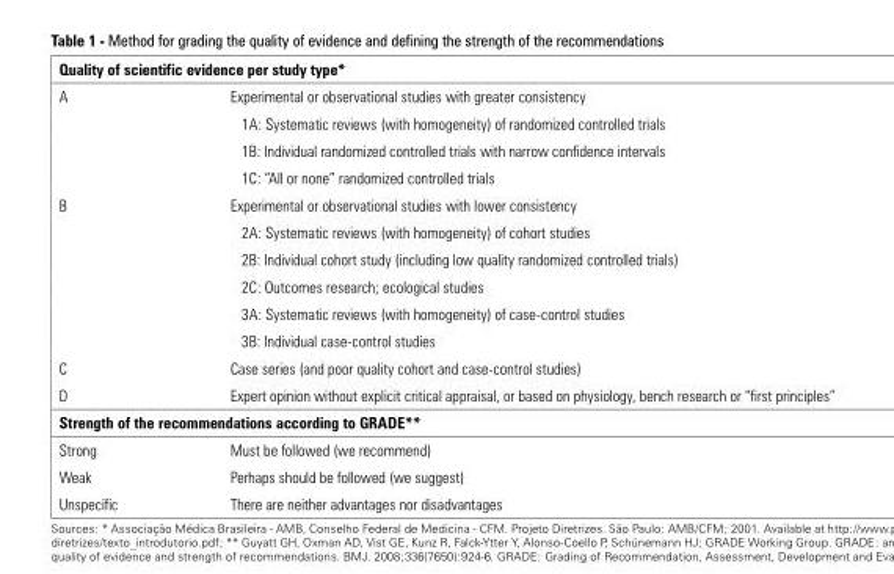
<table><tbody><tr><td colspan="2">Quality of scientific evidence per study type*</td></tr><tr><td rowspan="4">A</td><td>Experimental or observational studies with greater consistency</td></tr><tr><td>1A: Systematic reviews (with homogeneity) of randomized controlled trials</td></tr><tr><td>1B: Individual randomized controlled trials with narrow confidence intervals</td></tr><tr><td>1C: “All or none” randomized controlled trials</td></tr><tr><td rowspan="6">B</td><td>Experimental or observational studies with lower consistency</td></tr><tr><td>2A: Systematic reviews (with homogeneity) of cohort studies</td></tr><tr><td>2B: Individual cohort study (including low quality randomized controlled trials)</td></tr><tr><td>2C: Outcomes research; ecological studies</td></tr><tr><td>3A: Systematic reviews (with homogeneity) of case-control studies</td></tr><tr><td>3B: Individual case-control studies</td></tr><tr><td>C</td><td>Case series (and poor quality cohort and case-control studies)</td></tr><tr><td>D</td><td>Expert opinion without explicit critical appraisal, or based on physiology, bench research or “first principles”</td></tr><tr><td colspan="2">Strength of the recommendations according to GRADE**</td></tr><tr><td>Strong</td><td>Must be followed (we recommend)</td></tr><tr><td>Weak</td><td>Perhaps should be followed (we suggest)</td></tr><tr><td>Unspecific</td><td>There are neither advantages nor disadvantages</td></tr></tbody></table>